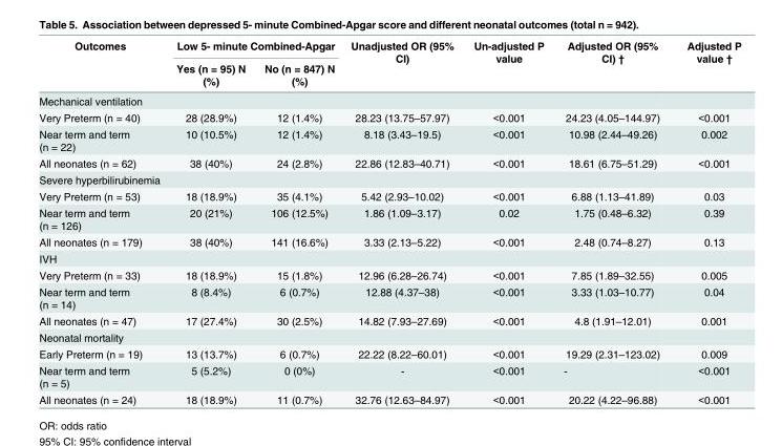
<table><thead><tr><td rowspan="2">Outcomes</td><td colspan="2">Low 5- minute Combined-Apgar</td><td rowspan="2">Unadjusted OR (95% CI)</td><td rowspan="2">Un-adjusted P value</td><td rowspan="2">Adjusted OR (95% CI) †</td><td rowspan="2">Adjusted P value †</td></tr><tr><td>Yes (n = 95) N (%)</td><td>No (n = 847) N (%)</td></tr></thead><tbody><tr><td colspan="7">Mechanical ventilation</td></tr><tr><td>Very Preterm (n = 40)</td><td>28 (28.9%)</td><td>12 (1.4%)</td><td>28.23 (13.75–57.97)</td><td>&lt;0.001</td><td>24.23 (4.05–144.97)</td><td>&lt;0.001</td></tr><tr><td>Near term and term (n = 22)</td><td>10 (10.5%)</td><td>12 (1.4%)</td><td>8.18 (3.43–19.5)</td><td>&lt;0.001</td><td>10.98 (2.44–49.26)</td><td>0.002</td></tr><tr><td>All neonates (n = 62)</td><td>38 (40%)</td><td>24 (2.8%)</td><td>22.86 (12.83–40.71)</td><td>&lt;0.001</td><td>18.61 (6.75–51.29)</td><td>&lt;0.001</td></tr><tr><td colspan="7">Severe hyperbilirubinemia</td></tr><tr><td>Very Preterm (n = 53)</td><td>18 (18.9%)</td><td>35 (4.1%)</td><td>5.42 (2.93–10.02)</td><td>&lt;0.001</td><td>6.88 (1.13–41.89)</td><td>0.03</td></tr><tr><td>Near term and term (n = 126)</td><td>20 (21%)</td><td>106 (12.5%)</td><td>1.86 (1.09–3.17)</td><td>0.02</td><td>1.75 (0.48–6.32)</td><td>0.39</td></tr><tr><td>All neonates (n = 179)</td><td>38 (40%)</td><td>141 (16.6%)</td><td>3.33 (2.13–5.22)</td><td>&lt;0.001</td><td>2.48 (0.74–8.27)</td><td>0.13</td></tr><tr><td colspan="7">IVH</td></tr><tr><td>Very Preterm (n = 33)</td><td>18 (18.9%)</td><td>15 (1.8%)</td><td>12.96 (6.28–26.74)</td><td>&lt;0.001</td><td>7.85 (1.89–32.55)</td><td>0.005</td></tr><tr><td>Near term and term (n = 14)</td><td>8 (8.4%)</td><td>6 (0.7%)</td><td>12.88 (4.37–38)</td><td>&lt;0.001</td><td>3.33 (1.03–10.77)</td><td>0.04</td></tr><tr><td>All neonates (n = 47)</td><td>17 (27.4%)</td><td>30 (2.5%)</td><td>14.82 (7.93–27.69)</td><td>&lt;0.001</td><td>4.8 (1.91–12.01)</td><td>0.001</td></tr><tr><td colspan="7">Neonatal mortality</td></tr><tr><td>Early Preterm (n = 19)</td><td>13 (13.7%)</td><td>6 (0.7%)</td><td>22.22 (8.22–60.01)</td><td>&lt;0.001</td><td>19.29 (2.31–123.02)</td><td>0.009</td></tr><tr><td>Near term and term (n = 5)</td><td>5 (5.2%)</td><td>0 (0%)</td><td>-</td><td>&lt;0.001</td><td>-</td><td>&lt;0.001</td></tr><tr><td>All neonates (n = 24)</td><td>18 (18.9%)</td><td>11 (0.7%)</td><td>32.76 (12.63–84.97)</td><td>&lt;0.001</td><td>20.22 (4.22–96.88)</td><td>&lt;0.001</td></tr></tbody></table>